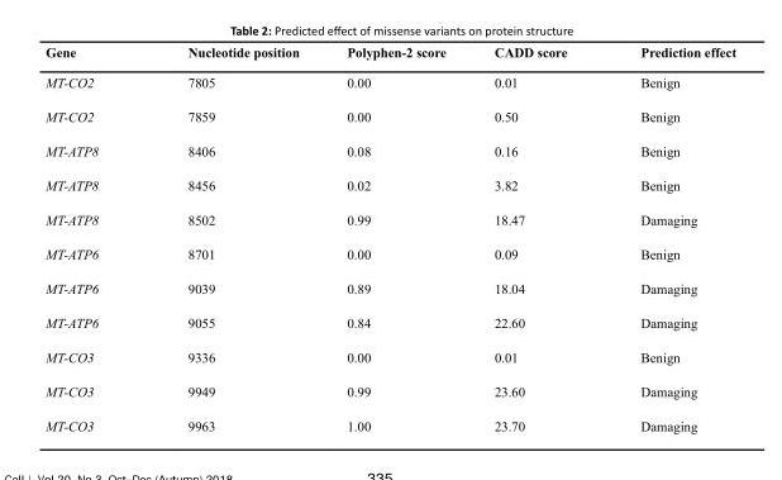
<table><thead><tr><td>Gene</td><td>Nucleotide position</td><td>Polyphen-2 score</td><td>CADD score</td><td>Prediction effect</td></tr></thead><tbody><tr><td>MT-CO2</td><td>7805</td><td>0.00</td><td>0.01</td><td>Benign</td></tr><tr><td>MT-CO2</td><td>7859</td><td>0.00</td><td>0.50</td><td>Benign</td></tr><tr><td>MT-ATP8</td><td>8406</td><td>0.08</td><td>0.16</td><td>Benign</td></tr><tr><td>MT-ATP8</td><td>8456</td><td>0.02</td><td>3.82</td><td>Benign</td></tr><tr><td>MT-ATP8</td><td>8502</td><td>0.99</td><td>18.47</td><td>Damaging</td></tr><tr><td>MT-ATP6</td><td>8701</td><td>0.00</td><td>0.09</td><td>Benign</td></tr><tr><td>MT-ATP6</td><td>9039</td><td>0.89</td><td>18.04</td><td>Damaging</td></tr><tr><td>MT-ATP6</td><td>9055</td><td>0.84</td><td>22.60</td><td>Damaging</td></tr><tr><td>MT-CO3</td><td>9336</td><td>0.00</td><td>0.01</td><td>Benign</td></tr><tr><td>MT-CO3</td><td>9949</td><td>0.99</td><td>23.60</td><td>Damaging</td></tr><tr><td>MT-CO3</td><td>9963</td><td>1.00</td><td>23.70</td><td>Damaging</td></tr></tbody></table>